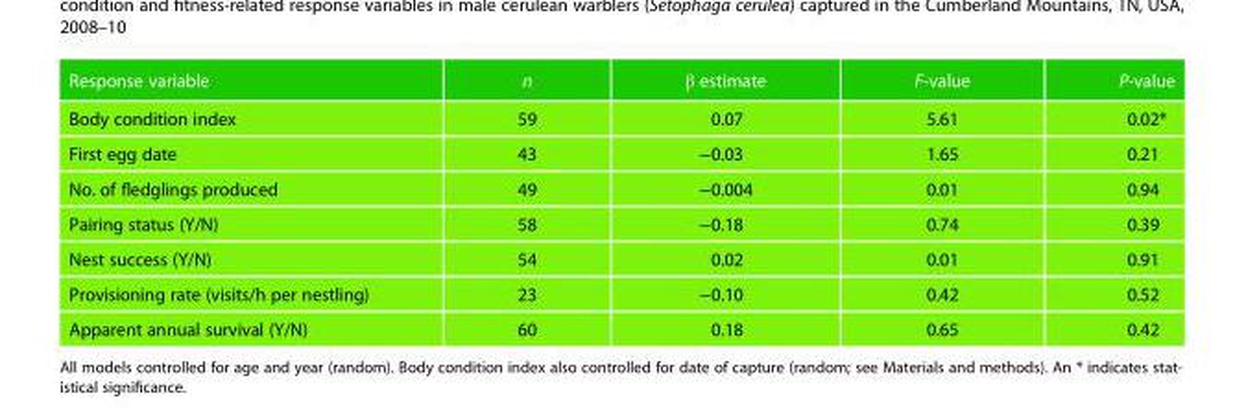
<table><thead><tr><td>Response variable</td><td>n</td><td>β estimate</td><td>F-value</td><td>P-value</td></tr></thead><tbody><tr><td>Body condition index</td><td>59</td><td>0.07</td><td>5.61</td><td>0.02*</td></tr><tr><td>First egg date</td><td>43</td><td>−0.03</td><td>1.65</td><td>0.21</td></tr><tr><td>No. of fledglings produced</td><td>49</td><td>−0.004</td><td>0.01</td><td>0.94</td></tr><tr><td>Pairing status (Y/N)</td><td>58</td><td>−0.18</td><td>0.74</td><td>0.39</td></tr><tr><td>Nest success (Y/N)</td><td>54</td><td>0.02</td><td>0.01</td><td>0.91</td></tr><tr><td>Provisioning rate (visits/h per nestling)</td><td>23</td><td>−0.10</td><td>0.42</td><td>0.52</td></tr><tr><td>Apparent annual survival (Y/N)</td><td>60</td><td>0.18</td><td>0.65</td><td>0.42</td></tr></tbody></table>